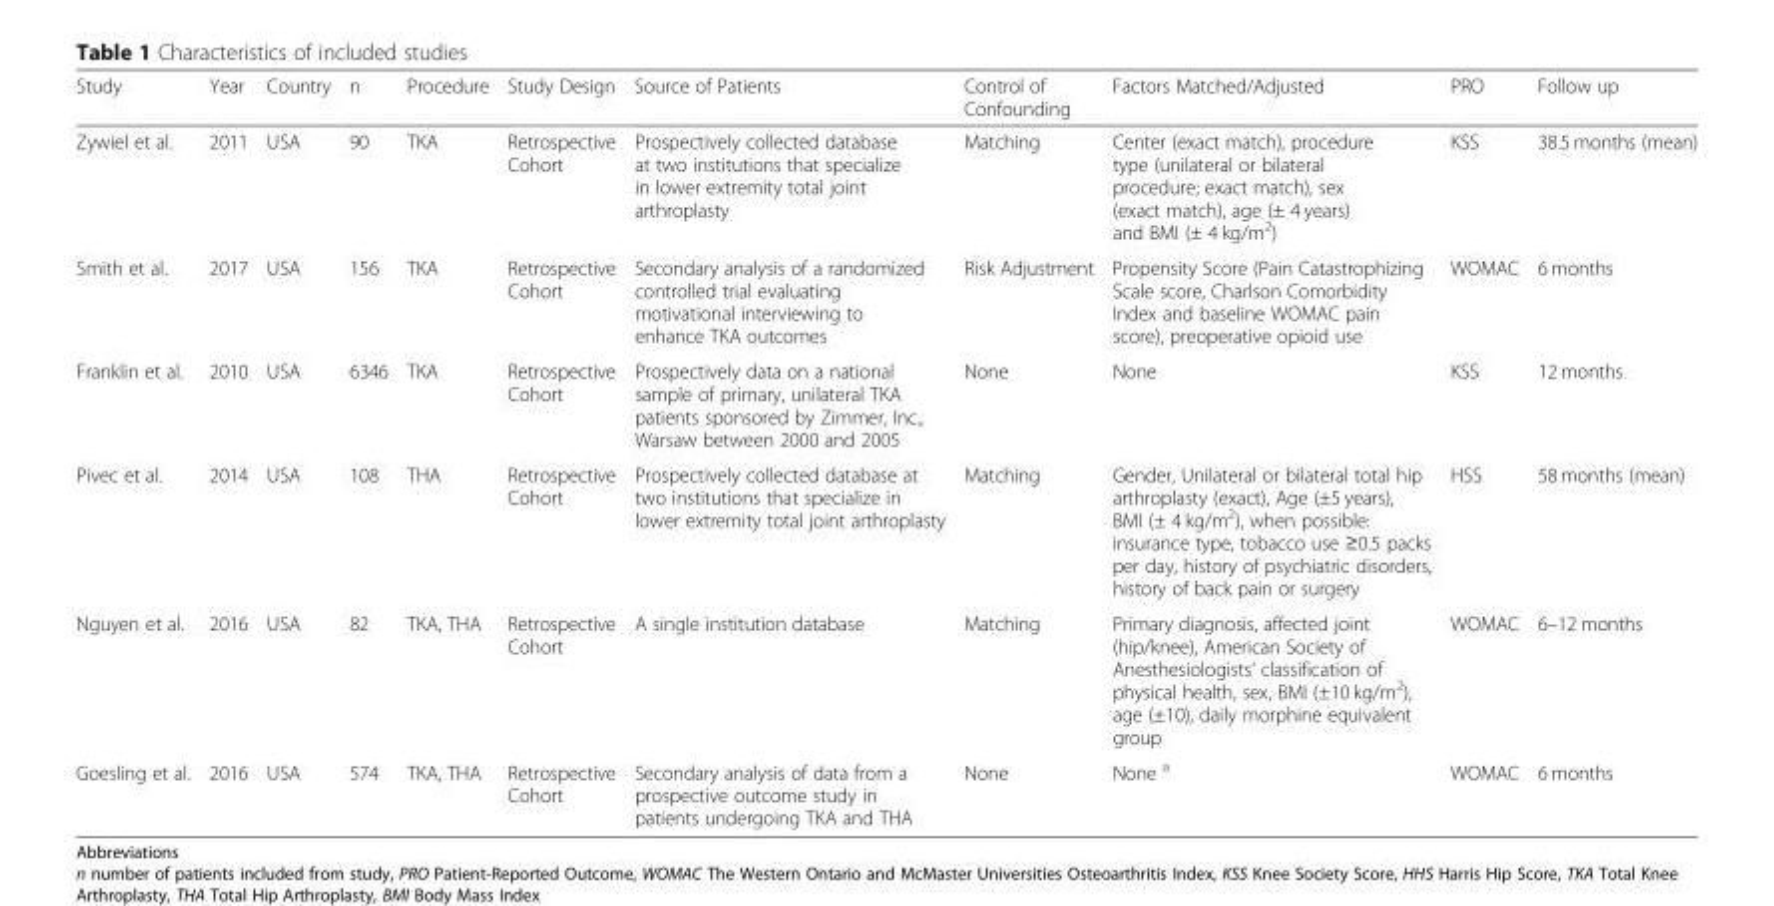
<table><thead><tr><td>Study</td><td>Year</td><td>Country</td><td>n</td><td>Procedure</td><td>Study Design</td><td>Source of Patients</td><td>Control of Confounding</td><td>Factors Matched/Adjusted</td><td>PRO</td><td>Follow up</td></tr></thead><tbody><tr><td>Zywiel et al.</td><td>2011</td><td>USA</td><td>90</td><td>TKA</td><td>Retrospective Cohort</td><td>Prospectively collected database at two institutions that specialize in lower extremity total joint arthroplasty</td><td>Matching</td><td>Center (exact match), procedure type (unilateral or bilateral procedure; exact match), sex (exact match), age (± 4 years) and BMI (± 4 kg/m<sup>2</sup>)</td><td>KSS</td><td>38.5 months (mean)</td></tr><tr><td>Smith et al.</td><td>2017</td><td>USA</td><td>156</td><td>TKA</td><td>Retrospective Cohort</td><td>Secondary analysis of a randomized controlled trial evaluating motivational interviewing to enhance TKA outcomes</td><td>Risk Adjustment</td><td>Propensity Score (Pain Catastrophizing Scale score, Charlson Comorbidity Index and baseline WOMAC pain score), preoperative opioid use</td><td>WOMAC</td><td>6 months</td></tr><tr><td>Franklin et al.</td><td>2010</td><td>USA</td><td>6346</td><td>TKA</td><td>Retrospective Cohort</td><td>Prospectively data on a national sample of primary, unilateral TKA patients sponsored by Zimmer, Inc., Warsaw between 2000 and 2005</td><td>None</td><td>None</td><td>KSS</td><td>12 months</td></tr><tr><td>Pivec et al.</td><td>2014</td><td>USA</td><td>108</td><td>THA</td><td>Retrospective Cohort</td><td>Prospectively collected database at two institutions that specialize in lower extremity total joint arthroplasty</td><td>Matching</td><td>Gender, Unilateral or bilateral total hip arthroplasty (exact), Age (±5 years), BMI (± 4 kg/m<sup>2</sup>), when possible: insurance type, tobacco use ≥0.5 packs per day, history of psychiatric disorders, history of back pain or surgery</td><td>HSS</td><td>58 months (mean)</td></tr><tr><td>Nguyen et al.</td><td>2016</td><td>USA</td><td>82</td><td>TKA, THA</td><td>Retrospective Cohort</td><td>A single institution database</td><td>Matching</td><td>Primary diagnosis, affected joint (hip/knee), American Society of Anesthesiologists’ classification of physical health, sex, BMI (±10 kg/m<sup>2</sup>), age (±10), daily morphine equivalent group</td><td>WOMAC</td><td>6–12 months</td></tr><tr><td>Goesling et al.</td><td>2016</td><td>USA</td><td>574</td><td>TKA, THA</td><td>Retrospective Cohort</td><td>Secondary analysis of data from a prospective outcome study in patients undergoing TKA and THA</td><td>None</td><td>None <sup>a</sup></td><td>WOMAC</td><td>6 months</td></tr></tbody></table>